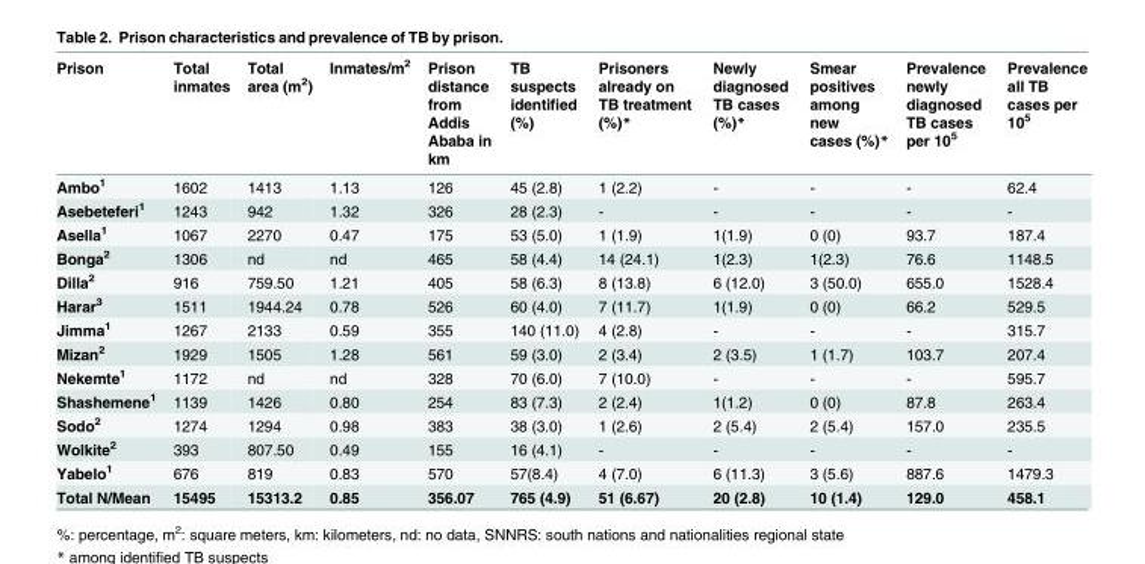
<table><thead><tr><td>Prison</td><td>Total inmates</td><td>Total area (m<sup>2</sup>)</td><td>Inmates/m<sup>2</sup></td><td>Prison distance from Addis Ababa in km</td><td>TB suspects identified (%)</td><td>Prisoners already on TB treatment (%)*</td><td>Newly diagnosed TB cases (%)*</td><td>Smear positives among new cases (%)*</td><td>Prevalence newly diagnosed TB cases per 10<sup>5</sup></td><td>Prevalence all TB cases per 10<sup>5</sup></td></tr></thead><tbody><tr><td>Ambo<sup>1</sup></td><td>1602</td><td>1413</td><td>1.13</td><td>126</td><td>45 (2.8)</td><td>1 (2.2)</td><td>-</td><td>-</td><td>-</td><td>62.4</td></tr><tr><td>Asebeteferi<sup>1</sup></td><td>1243</td><td>942</td><td>1.32</td><td>326</td><td>28 (2.3)</td><td>-</td><td>-</td><td>-</td><td>-</td><td>-</td></tr><tr><td>Asella<sup>1</sup></td><td>1067</td><td>2270</td><td>0.47</td><td>175</td><td>53 (5.0)</td><td>1 (1.9)</td><td>1(1.9)</td><td>0 (0)</td><td>93.7</td><td>187.4</td></tr><tr><td>Bonga<sup>2</sup></td><td>1306</td><td>nd</td><td>nd</td><td>465</td><td>58 (4.4)</td><td>14 (24.1)</td><td>1(2.3)</td><td>1(2.3)</td><td>76.6</td><td>1148.5</td></tr><tr><td>Dilla<sup>2</sup></td><td>916</td><td>759.50</td><td>1.21</td><td>405</td><td>58 (6.3)</td><td>8 (13.8)</td><td>6 (12.0)</td><td>3 (50.0)</td><td>655.0</td><td>1528.4</td></tr><tr><td>Harar<sup>3</sup></td><td>1511</td><td>1944.24</td><td>0.78</td><td>526</td><td>60 (4.0)</td><td>7 (11.7)</td><td>1(1.9)</td><td>0 (0)</td><td>66.2</td><td>529.5</td></tr><tr><td>Jimma<sup>1</sup></td><td>1267</td><td>2133</td><td>0.59</td><td>355</td><td>140 (11.0)</td><td>4 (2.8)</td><td>-</td><td>-</td><td>-</td><td>315.7</td></tr><tr><td>Mizan<sup>2</sup></td><td>1929</td><td>1505</td><td>1.28</td><td>561</td><td>59 (3.0)</td><td>2 (3.4)</td><td>2 (3.5)</td><td>1 (1.7)</td><td>103.7</td><td>207.4</td></tr><tr><td>Nekemte<sup>1</sup></td><td>1172</td><td>nd</td><td>nd</td><td>328</td><td>70 (6.0)</td><td>7 (10.0)</td><td>-</td><td>-</td><td>-</td><td>595.7</td></tr><tr><td>Shashemene<sup>1</sup></td><td>1139</td><td>1426</td><td>0.80</td><td>254</td><td>83 (7.3)</td><td>2 (2.4)</td><td>1(1.2)</td><td>0 (0)</td><td>87.8</td><td>263.4</td></tr><tr><td>Sodo<sup>2</sup></td><td>1274</td><td>1294</td><td>0.98</td><td>383</td><td>38 (3.0)</td><td>1 (2.6)</td><td>2 (5.4)</td><td>2 (5.4)</td><td>157.0</td><td>235.5</td></tr><tr><td>Wolkite<sup>2</sup></td><td>393</td><td>807.50</td><td>0.49</td><td>155</td><td>16 (4.1)</td><td>-</td><td>-</td><td>-</td><td>-</td><td>-</td></tr><tr><td>Yabelo<sup>1</sup></td><td>676</td><td>819</td><td>0.83</td><td>570</td><td>57(8.4)</td><td>4 (7.0)</td><td>6 (11.3)</td><td>3 (5.6)</td><td>887.6</td><td>1479.3</td></tr><tr><td>Total N/Mean</td><td>15495</td><td>15313.2</td><td>0.85</td><td>356.07</td><td>765 (4.9)</td><td>51 (6.67)</td><td>20 (2.8)</td><td>10 (1.4)</td><td>129.0</td><td>458.1</td></tr></tbody></table>